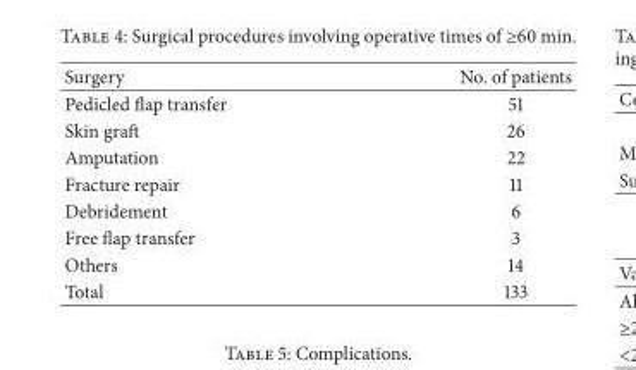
<table><thead><tr><td>Surgery</td><td>No. of patients</td></tr></thead><tbody><tr><td>Pedicled flap transfer</td><td>51</td></tr><tr><td>Skin graft</td><td>26</td></tr><tr><td>Amputation</td><td>22</td></tr><tr><td>Fracture repair</td><td>11</td></tr><tr><td>Debridement</td><td>6</td></tr><tr><td>Free flap transfer</td><td>3</td></tr><tr><td>Others</td><td>14</td></tr><tr><td>Total</td><td>133</td></tr></tbody></table>